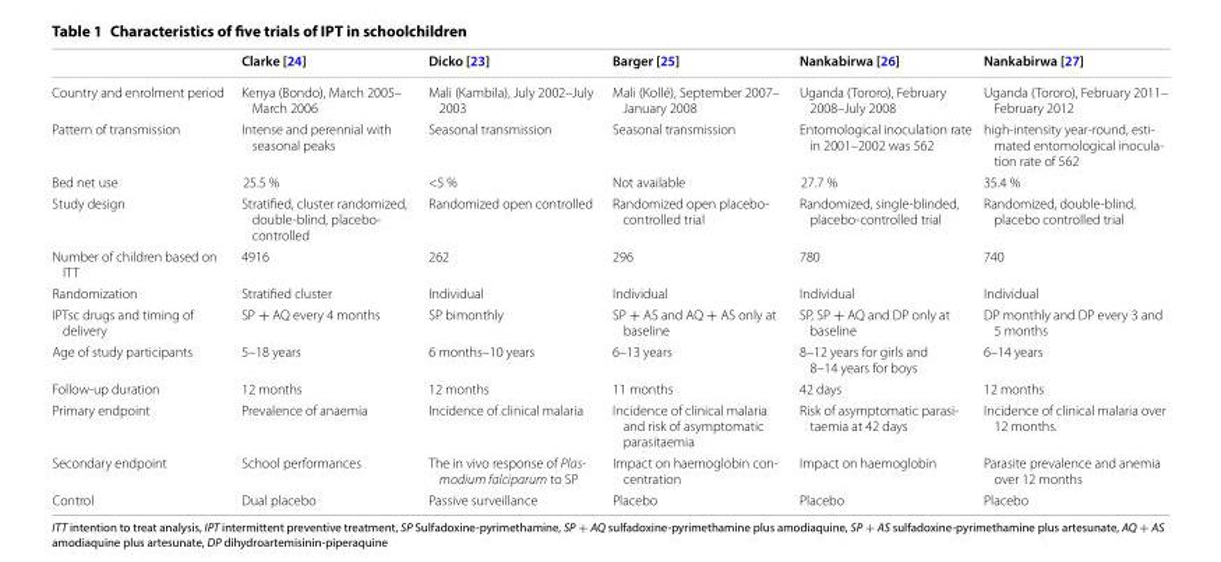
<table><thead><tr><td></td><td>Clarke [24]</td><td>Dicko [23]</td><td>Barger [25]</td><td>Nankabirwa [26]</td><td>Nankabirwa [27]</td></tr></thead><tbody><tr><td>Country and enrolment period</td><td>Kenya (Bondo), March 2005– March 2006</td><td>Mali (Kambila), July 2002–July 2003</td><td>Mali (Kollé), September 2007– January 2008</td><td>Uganda (Tororo), February 2008–July 2008</td><td>Uganda (Tororo), February 2011– February 2012</td></tr><tr><td>Pattern of transmission</td><td>Intense and perennial with seasonal peaks</td><td>Seasonal transmission</td><td>Seasonal transmission</td><td>Entomological inoculation rate in 2001–2002 was 562</td><td>high‑intensity year‑round, esti‑ mated entomological inocula‑ tion rate of 562</td></tr><tr><td>Bed net use</td><td>25.5 %</td><td>&lt;5 %</td><td>Not available</td><td>27.7 %</td><td>35.4 %</td></tr><tr><td>Study design</td><td>Stratified, cluster randomized, double‑blind, placebo‑ controlled</td><td>Randomized open controlled</td><td>Randomized open placebo‑ controlled trial</td><td>Randomized, single‑blinded, placebo‑controlled trial</td><td>Randomized, double‑blind, placebo controlled trial</td></tr><tr><td>Number of children based on ITT</td><td>4916</td><td>262</td><td>296</td><td>780</td><td>740</td></tr><tr><td>Randomization</td><td>Stratified cluster</td><td>Individual</td><td>Individual</td><td>Individual</td><td>Individual</td></tr><tr><td>IPTsc drugs and timing of delivery</td><td>SP + AQ every 4 months</td><td>SP bimonthly</td><td>SP + AS and AQ + AS only at baseline</td><td>SP, SP + AQ and DP only at baseline</td><td>DP monthly and DP every 3 and 5 months</td></tr><tr><td>Age of study participants</td><td>5–18 years</td><td>6 months–10 years</td><td>6–13 years</td><td>8–12 years for girls and 8–14 years for boys</td><td>6–14 years</td></tr><tr><td>Follow‑up duration</td><td>12 months</td><td>12 months</td><td>11 months</td><td>42 days</td><td>12 months</td></tr><tr><td>Primary endpoint</td><td>Prevalence of anaemia</td><td>Incidence of clinical malaria</td><td>Incidence of clinical malaria and risk of asymptomatic parasitaemia</td><td>Risk of asymptomatic parasi‑ taemia at 42 days</td><td>Incidence of clinical malaria over 12 months.</td></tr><tr><td>Secondary endpoint</td><td>School performances</td><td>The in vivo response of Plas- modium falciparum to SP</td><td>Impact on haemoglobin con‑ centration</td><td>Impact on haemoglobin</td><td>Parasite prevalence and anemia over 12 months</td></tr><tr><td>Control</td><td>Dual placebo</td><td>Passive surveillance</td><td>Placebo</td><td>Placebo</td><td>Placebo</td></tr></tbody></table>